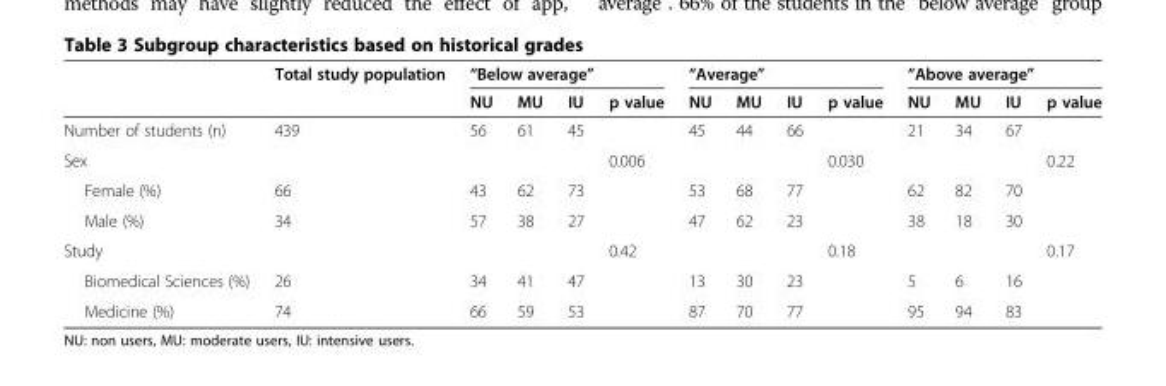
<table><thead><tr><td rowspan="2"></td><td rowspan="2">Total study population</td><td colspan="4">“Below average”</td><td colspan="4">“Average”</td><td colspan="4">“Above average”</td></tr><tr><td>NU</td><td>MU</td><td>IU</td><td>p value</td><td>NU</td><td>MU</td><td>IU</td><td>p value</td><td>NU</td><td>MU</td><td>IU</td><td>p value</td></tr></thead><tbody><tr><td>Number of students (n)</td><td>439</td><td>56</td><td>61</td><td>45</td><td></td><td>45</td><td>44</td><td>66</td><td></td><td>21</td><td>34</td><td>67</td><td></td></tr><tr><td>Sex</td><td></td><td></td><td></td><td></td><td>0.006</td><td></td><td></td><td></td><td>0.030</td><td></td><td></td><td></td><td>0.22</td></tr><tr><td>Female (%)</td><td>66</td><td>43</td><td>62</td><td>73</td><td></td><td>53</td><td>68</td><td>77</td><td></td><td>62</td><td>82</td><td>70</td><td></td></tr><tr><td>Male (%)</td><td>34</td><td>57</td><td>38</td><td>27</td><td></td><td>47</td><td>62</td><td>23</td><td></td><td>38</td><td>18</td><td>30</td><td></td></tr><tr><td>Study</td><td></td><td></td><td></td><td></td><td>0.42</td><td></td><td></td><td></td><td>0.18</td><td></td><td></td><td></td><td>0.17</td></tr><tr><td>Biomedical Sciences (%)</td><td>26</td><td>34</td><td>41</td><td>47</td><td></td><td>13</td><td>30</td><td>23</td><td></td><td>5</td><td>6</td><td>16</td><td></td></tr><tr><td>Medicine (%)</td><td>74</td><td>66</td><td>59</td><td>53</td><td></td><td>87</td><td>70</td><td>77</td><td></td><td>95</td><td>94</td><td>83</td><td></td></tr></tbody></table>